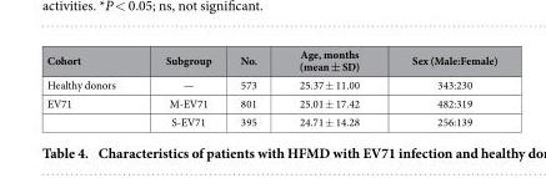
<table><thead><tr><td>Cohort</td><td>Subgroup</td><td>No.</td><td>Age, months (mean ± SD)</td><td>Sex (Male:Female)</td></tr></thead><tbody><tr><td>Healthy donors</td><td>—</td><td>573</td><td>25.37 ± 11.00</td><td>343:230</td></tr><tr><td rowspan="2">EV71</td><td>M-EV71</td><td>801</td><td>25.01 ± 17.42</td><td>482:319</td></tr><tr><td>S-EV71</td><td>395</td><td>24.71 ± 14.28</td><td>256:139</td></tr></tbody></table>